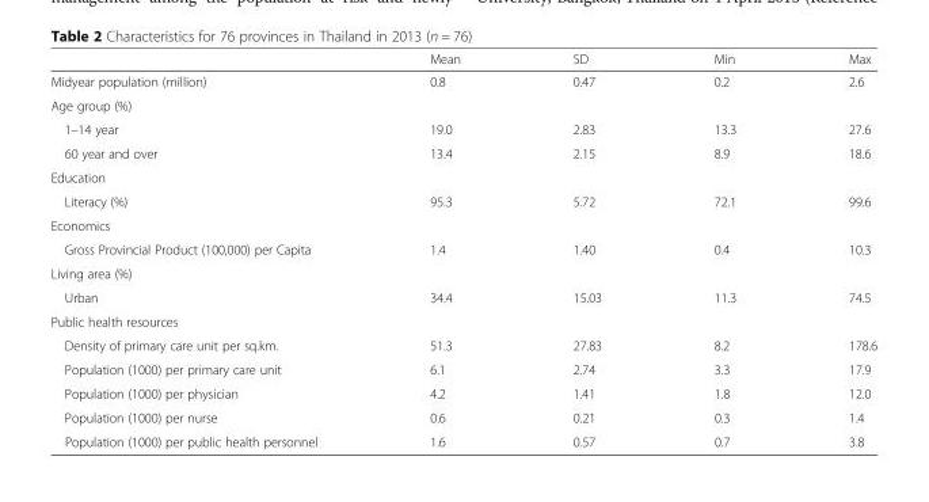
<table><thead><tr><td></td><td>Mean</td><td>SD</td><td>Min</td><td>Max</td></tr></thead><tbody><tr><td>Midyear population (million)</td><td>0.8</td><td>0.47</td><td>0.2</td><td>2.6</td></tr><tr><td colspan="5">Age group (%)</td></tr><tr><td>1–14 year</td><td>19.0</td><td>2.83</td><td>13.3</td><td>27.6</td></tr><tr><td>60 year and over</td><td>13.4</td><td>2.15</td><td>8.9</td><td>18.6</td></tr><tr><td colspan="5">Education</td></tr><tr><td>Literacy (%)</td><td>95.3</td><td>5.72</td><td>72.1</td><td>99.6</td></tr><tr><td colspan="5">Economics</td></tr><tr><td>Gross Provincial Product (100,000) per Capita</td><td>1.4</td><td>1.40</td><td>0.4</td><td>10.3</td></tr><tr><td colspan="5">Living area (%)</td></tr><tr><td>Urban</td><td>34.4</td><td>15.03</td><td>11.3</td><td>74.5</td></tr><tr><td colspan="5">Public health resources</td></tr><tr><td>Density of primary care unit per sq.km.</td><td>51.3</td><td>27.83</td><td>8.2</td><td>178.6</td></tr><tr><td>Population (1000) per primary care unit</td><td>6.1</td><td>2.74</td><td>3.3</td><td>17.9</td></tr><tr><td>Population (1000) per physician</td><td>4.2</td><td>1.41</td><td>1.8</td><td>12.0</td></tr><tr><td>Population (1000) per nurse</td><td>0.6</td><td>0.21</td><td>0.3</td><td>1.4</td></tr><tr><td>Population (1000) per public health personnel</td><td>1.6</td><td>0.57</td><td>0.7</td><td>3.8</td></tr></tbody></table>